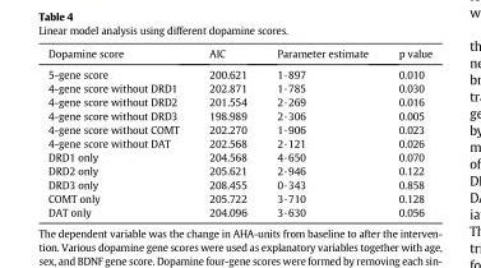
<table><thead><tr><td>Dopamine score</td><td>AIC</td><td>Parameter estimate</td><td>p value</td></tr></thead><tbody><tr><td>5-gene score</td><td>200.621</td><td>1·897</td><td>0.010</td></tr><tr><td>4-gene score without DRD1</td><td>202.871</td><td>1·785</td><td>0.030</td></tr><tr><td>4-gene score without DRD2</td><td>201.554</td><td>2·269</td><td>0.016</td></tr><tr><td>4-gene score without DRD3</td><td>198.989</td><td>2·306</td><td>0.005</td></tr><tr><td>4-gene score without COMT</td><td>202.270</td><td>1·906</td><td>0.023</td></tr><tr><td>4-gene score without DAT</td><td>202.568</td><td>2·121</td><td>0.026</td></tr><tr><td>DRD1 only</td><td>204.568</td><td>4·650</td><td>0.070</td></tr><tr><td>DRD2 only</td><td>205.621</td><td>2·946</td><td>0.122</td></tr><tr><td>DRD3 only</td><td>208.455</td><td>0·343</td><td>0.858</td></tr><tr><td>COMT only</td><td>205.722</td><td>3·710</td><td>0.128</td></tr><tr><td>DAT only</td><td>204.096</td><td>3·630</td><td>0.056</td></tr></tbody></table>